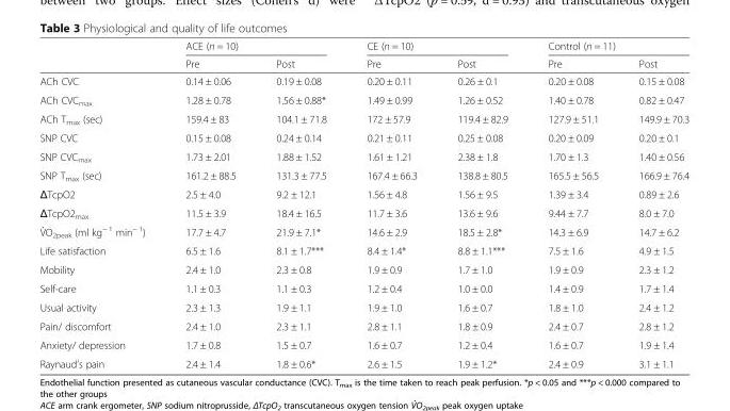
<table><thead><tr><td rowspan="2"></td><td colspan="2">ACE (n = 10)</td><td colspan="2">CE (n = 10)</td><td colspan="2">Control (n = 11)</td></tr><tr><td>Pre</td><td>Post</td><td>Pre</td><td>Post</td><td>Pre</td><td>Post</td></tr></thead><tbody><tr><td>ACh CVC</td><td>0.14 ± 0.06</td><td>0.19 ± 0.08</td><td>0.20 ± 0.11</td><td>0.26 ± 0.1</td><td>0.20 ± 0.08</td><td>0.15 ± 0.08</td></tr><tr><td>ACh CVC<sub>max</sub></td><td>1.28 ± 0.78</td><td>1.56 ± 0.88*</td><td>1.49 ± 0.99</td><td>1.26 ± 0.52</td><td>1.40 ± 0.78</td><td>0.82 ± 0.47</td></tr><tr><td>ACh T<sub>max</sub> (sec)</td><td>159.4 ± 83</td><td>104.1 ± 71.8</td><td>172 ± 57.9</td><td>119.4 ± 82.9</td><td>127.9 ± 51.1</td><td>149.9 ± 70.3</td></tr><tr><td>SNP CVC</td><td>0.15 ± 0.08</td><td>0.24 ± 0.14</td><td>0.21 ± 0.11</td><td>0.25 ± 0.08</td><td>0.20 ± 0.09</td><td>0.20 ± 0.1</td></tr><tr><td>SNP CVC<sub>max</sub></td><td>1.73 ± 2.01</td><td>1.88 ± 1.52</td><td>1.61 ± 1.21</td><td>2.38 ± 1.8</td><td>1.70 ± 1.3</td><td>1.40 ± 0.56</td></tr><tr><td>SNP T<sub>max</sub> (sec)</td><td>161.2 ± 88.5</td><td>131.3 ± 77.5</td><td>167.4 ± 66.3</td><td>138.8 ± 80.5</td><td>165.5 ± 56.5</td><td>166.9 ± 76.4</td></tr><tr><td>ΔTcpO2</td><td>2.5 ± 4.0</td><td>9.2 ± 12.1</td><td>1.56 ± 4.8</td><td>1.56 ± 9.5</td><td>1.39 ± 3.4</td><td>0.89 ± 2.6</td></tr><tr><td>ΔTcpO2<sub>max</sub></td><td>11.5 ± 3.9</td><td>18.4 ± 16.5</td><td>11.7 ± 3.6</td><td>13.6 ± 9.6</td><td>9.44 ± 7.7</td><td>8.0 ± 7.0</td></tr><tr><td>V̇O<sub>2peak</sub> (ml kg<sup>− 1</sup> min<sup>− 1</sup>)</td><td>17.7 ± 4.7</td><td>21.9 ± 7.1*</td><td>14.6 ± 2.9</td><td>18.5 ± 2.8*</td><td>14.3 ± 6.9</td><td>14.7 ± 6.2</td></tr><tr><td>Life satisfaction</td><td>6.5 ± 1.6</td><td>8.1 ± 1.7***</td><td>8.4 ± 1.4*</td><td>8.8 ± 1.1***</td><td>7.5 ± 1.6</td><td>4.9 ± 1.5</td></tr><tr><td>Mobility</td><td>2.4 ± 1.0</td><td>2.3 ± 0.8</td><td>1.9 ± 0.9</td><td>1.7 ± 1.0</td><td>1.9 ± 0.9</td><td>2.3 ± 1.2</td></tr><tr><td>Self-care</td><td>1.1 ± 0.3</td><td>1.1 ± 0.3</td><td>1.2 ± 0.4</td><td>1.0 ± 0.0</td><td>1.4 ± 0.9</td><td>1.7 ± 1.4</td></tr><tr><td>Usual activity</td><td>2.3 ± 1.3</td><td>1.9 ± 1.1</td><td>1.9 ± 1.0</td><td>1.6 ± 0.7</td><td>1.8 ± 1.0</td><td>2.4 ± 1.2</td></tr><tr><td>Pain/ discomfort</td><td>2.4 ± 1.0</td><td>2.3 ± 1.1</td><td>2.8 ± 1.1</td><td>1.8 ± 0.9</td><td>2.4 ± 0.7</td><td>2.8 ± 1.2</td></tr><tr><td>Anxiety/ depression</td><td>1.7 ± 0.8</td><td>1.5 ± 0.7</td><td>1.6 ± 0.7</td><td>1.2 ± 0.4</td><td>1.6 ± 0.7</td><td>1.9 ± 1.4</td></tr><tr><td>Raynaud’s pain</td><td>2.4 ± 1.4</td><td>1.8 ± 0.6*</td><td>2.6 ± 1.5</td><td>1.9 ± 1.2*</td><td>2.4 ± 0.9</td><td>3.1 ± 1.1</td></tr></tbody></table>